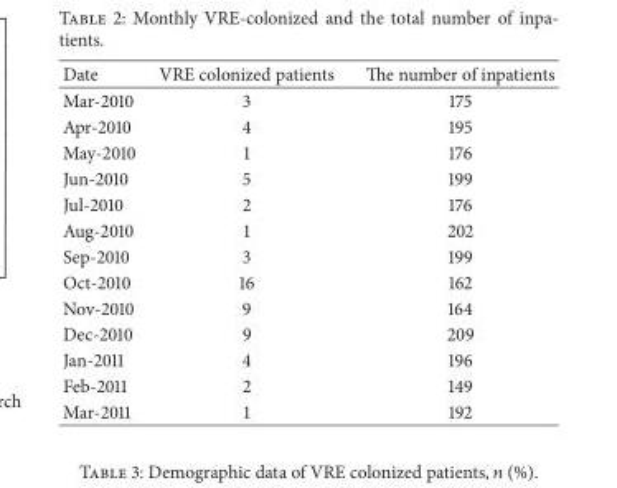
<table><thead><tr><td>Date</td><td>VRE colonized patients</td><td>The number of inpatients</td></tr></thead><tbody><tr><td>Mar-2010</td><td>3</td><td>175</td></tr><tr><td>Apr-2010</td><td>4</td><td>195</td></tr><tr><td>May-2010</td><td>1</td><td>176</td></tr><tr><td>Jun-2010</td><td>5</td><td>199</td></tr><tr><td>Jul-2010</td><td>2</td><td>176</td></tr><tr><td>Aug-2010</td><td>1</td><td>202</td></tr><tr><td>Sep-2010</td><td>3</td><td>199</td></tr><tr><td>Oct-2010</td><td>16</td><td>162</td></tr><tr><td>Nov-2010</td><td>9</td><td>164</td></tr><tr><td>Dec-2010</td><td>9</td><td>209</td></tr><tr><td>Jan-2011</td><td>4</td><td>196</td></tr><tr><td>Feb-2011</td><td>2</td><td>149</td></tr><tr><td>Mar-2011</td><td>1</td><td>192</td></tr></tbody></table>